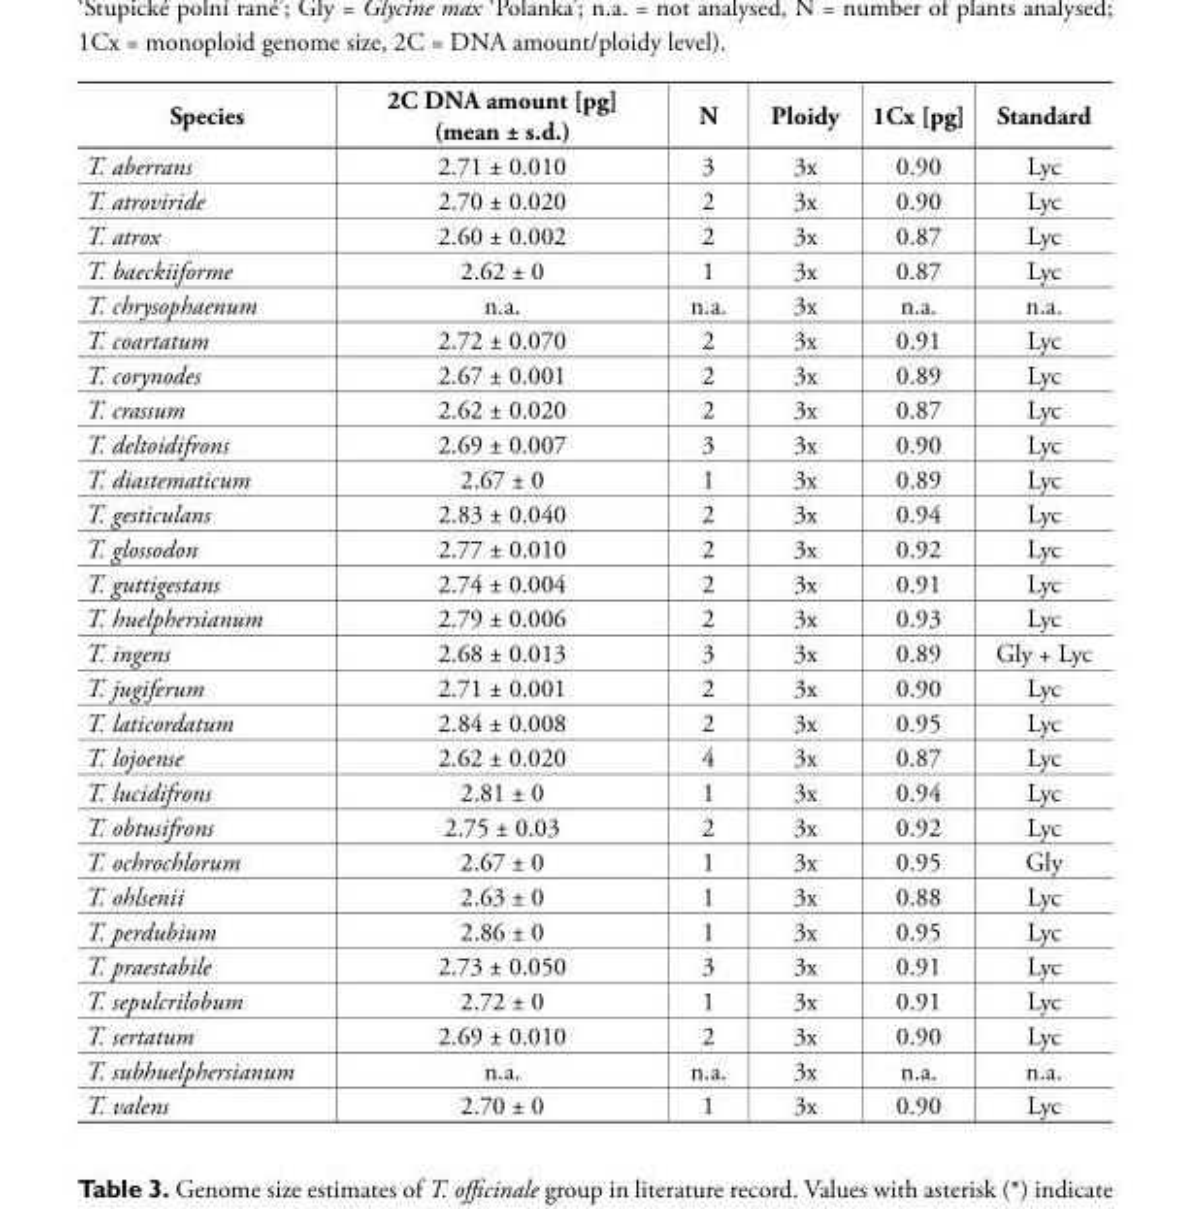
<table><thead><tr><td>Species</td><td>2C DNA amount [pg] (mean ± s.d.)</td><td>N</td><td>Ploidy</td><td>1Cx [pg]</td><td>Standard</td></tr></thead><tbody><tr><td>T. aberrans</td><td>2.71 ± 0.010</td><td>3</td><td>3x</td><td>0.90</td><td>Lyc</td></tr><tr><td>T. atroviride</td><td>2.70 ± 0.020</td><td>2</td><td>3x</td><td>0.90</td><td>Lyc</td></tr><tr><td>T. atrox</td><td>2.60 ± 0.002</td><td>2</td><td>3x</td><td>0.87</td><td>Lyc</td></tr><tr><td>T. baeckiiforme</td><td>2.62 ± 0</td><td>1</td><td>3x</td><td>0.87</td><td>Lyc</td></tr><tr><td>T. chrysophaenum</td><td>n.a.</td><td>n.a.</td><td>3x</td><td>n.a.</td><td>n.a.</td></tr><tr><td>T. coartatum</td><td>2.72 ± 0.070</td><td>2</td><td>3x</td><td>0.91</td><td>Lyc</td></tr><tr><td>T. corynodes</td><td>2.67 ± 0.001</td><td>2</td><td>3x</td><td>0.89</td><td>Lyc</td></tr><tr><td>T. crassum</td><td>2.62 ± 0.020</td><td>2</td><td>3x</td><td>0.87</td><td>Lyc</td></tr><tr><td>T. deltoidifrons</td><td>2.69 ± 0.007</td><td>3</td><td>3x</td><td>0.90</td><td>Lyc</td></tr><tr><td>T. diastematicum</td><td>2.67 ± 0</td><td>1</td><td>3x</td><td>0.89</td><td>Lyc</td></tr><tr><td>T. gesticulans</td><td>2.83 ± 0.040</td><td>2</td><td>3x</td><td>0.94</td><td>Lyc</td></tr><tr><td>T. glossodon</td><td>2.77 ± 0.010</td><td>2</td><td>3x</td><td>0.92</td><td>Lyc</td></tr><tr><td>T. guttigestans</td><td>2.74 ± 0.004</td><td>2</td><td>3x</td><td>0.91</td><td>Lyc</td></tr><tr><td>T. huelphersianum</td><td>2.79 ± 0.006</td><td>2</td><td>3x</td><td>0.93</td><td>Lyc</td></tr><tr><td>T. ingens</td><td>2.68 ± 0.013</td><td>3</td><td>3x</td><td>0.89</td><td>Gly + Lyc</td></tr><tr><td>T. jugiferum</td><td>2.71 ± 0.001</td><td>2</td><td>3x</td><td>0.90</td><td>Lyc</td></tr><tr><td>T. laticordatum</td><td>2.84 ± 0.008</td><td>2</td><td>3x</td><td>0.95</td><td>Lyc</td></tr><tr><td>T. lojoense</td><td>2.62 ± 0.020</td><td>4</td><td>3x</td><td>0.87</td><td>Lyc</td></tr><tr><td>T. lucidifrons</td><td>2.81 ± 0</td><td>1</td><td>3x</td><td>0.94</td><td>Lyc</td></tr><tr><td>T. obtusifrons</td><td>2.75 ± 0.03</td><td>2</td><td>3x</td><td>0.92</td><td>Lyc</td></tr><tr><td>T. ochrochlorum</td><td>2.67 ± 0</td><td>1</td><td>3x</td><td>0.95</td><td>Gly</td></tr><tr><td>T. ohlsenii</td><td>2.63 ± 0</td><td>1</td><td>3x</td><td>0.88</td><td>Lyc</td></tr><tr><td>T. perdubium</td><td>2.86 ± 0</td><td>1</td><td>3x</td><td>0.95</td><td>Lyc</td></tr><tr><td>T. praestabile</td><td>2.73 ± 0.050</td><td>3</td><td>3x</td><td>0.91</td><td>Lyc</td></tr><tr><td>T. sepulcrilobum</td><td>2.72 ± 0</td><td>1</td><td>3x</td><td>0.91</td><td>Lyc</td></tr><tr><td>T. sertatum</td><td>2.69 ± 0.010</td><td>2</td><td>3x</td><td>0.90</td><td>Lyc</td></tr><tr><td>T. subhuelphersianum</td><td>n.a.</td><td>n.a.</td><td>3x</td><td>n.a.</td><td>n.a.</td></tr><tr><td>T. valens</td><td>2.70 ± 0</td><td>1</td><td>3x</td><td>0.90</td><td>Lyc</td></tr></tbody></table>